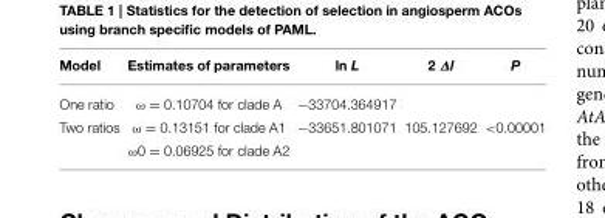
<table><thead><tr><td>Model</td><td>Estimates of parameters</td><td>ln L</td><td>2 ∆l</td><td>P</td></tr></thead><tbody><tr><td>One ratio</td><td>ω = 0.10704 for clade A</td><td>−33704.364917</td><td></td><td></td></tr><tr><td rowspan="2">Two ratios</td><td>ω = 0.13151 for clade A1</td><td>−33651.801071</td><td>105.127692</td><td>&lt;0.00001</td></tr><tr><td>ω0 = 0.06925 for clade A2</td><td></td><td></td><td></td></tr></tbody></table>